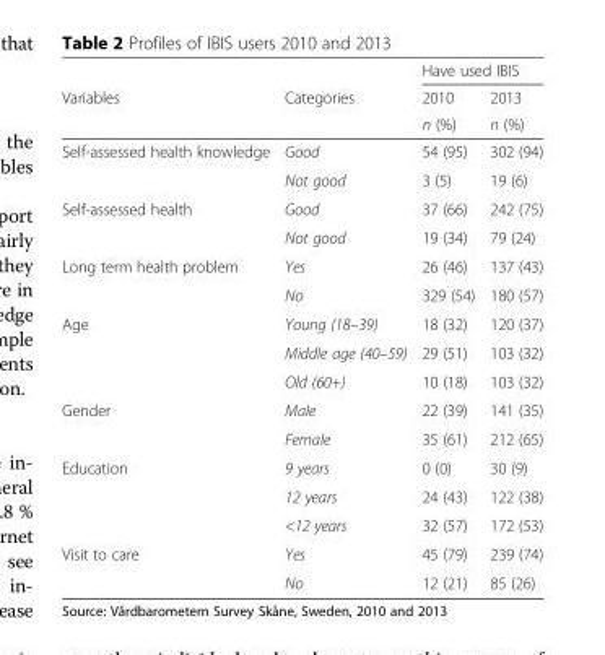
<table><thead><tr><td rowspan="3">Variables</td><td rowspan="3">Categories</td><td colspan="2">Have used IBIS</td></tr><tr><td rowspan="2">2010 n (%)</td><td rowspan="2">2013 n (%)</td></tr><tr></tr></thead><tbody><tr><td rowspan="2">Self-assessed health knowledge</td><td>Good</td><td>54 (95)</td><td>302 (94)</td></tr><tr><td>Not good</td><td>3 (5)</td><td>19 (6)</td></tr><tr><td rowspan="2">Self-assessed health</td><td>Good</td><td>37 (66)</td><td>242 (75)</td></tr><tr><td>Not good</td><td>19 (34)</td><td>79 (24)</td></tr><tr><td rowspan="2">Long term health problem</td><td>Yes</td><td>26 (46)</td><td>137 (43)</td></tr><tr><td>No</td><td>329 (54)</td><td>180 (57)</td></tr><tr><td rowspan="3">Age</td><td>Young (18–39)</td><td>18 (32)</td><td>120 (37)</td></tr><tr><td>Middle age (40–59)</td><td>29 (51)</td><td>103 (32)</td></tr><tr><td>Old (60+)</td><td>10 (18)</td><td>103 (32)</td></tr><tr><td rowspan="2">Gender</td><td>Male</td><td>22 (39)</td><td>141 (35)</td></tr><tr><td>Female</td><td>35 (61)</td><td>212 (65)</td></tr><tr><td rowspan="3">Education</td><td>9 years</td><td>0 (0)</td><td>30 (9)</td></tr><tr><td>12 years</td><td>24 (43)</td><td>122 (38)</td></tr><tr><td>&lt;12 years</td><td>32 (57)</td><td>172 (53)</td></tr><tr><td rowspan="2">Visit to care</td><td>Yes</td><td>45 (79)</td><td>239 (74)</td></tr><tr><td>No</td><td>12 (21)</td><td>85 (26)</td></tr></tbody></table>